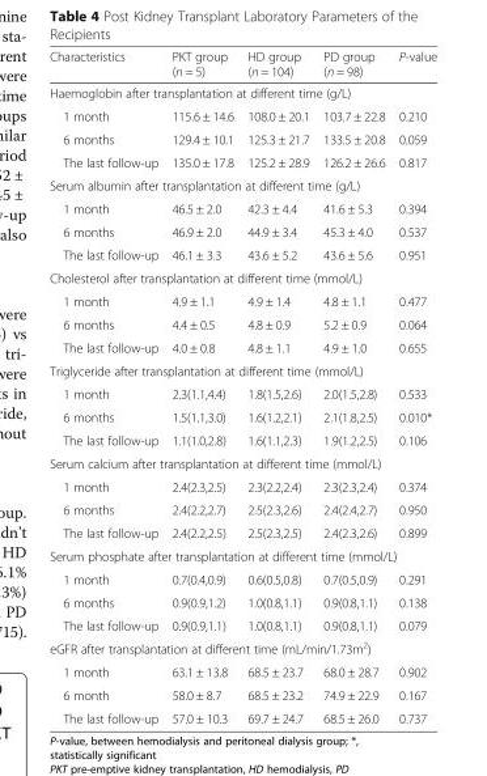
<table><thead><tr><td>Characteristics</td><td>PKT group (n = 5)</td><td>HD group (n = 104)</td><td>PD group (n = 98)</td><td>P-value</td></tr></thead><tbody><tr><td colspan="5">Haemoglobin after transplantation at different time (g/L)</td></tr><tr><td>1 month</td><td>115.6 ± 14.6</td><td>108.0 ± 20.1</td><td>103.7 ± 22.8</td><td>0.210</td></tr><tr><td>6 months</td><td>129.4 ± 10.1</td><td>125.3 ± 21.7</td><td>133.5 ± 20.8</td><td>0.059</td></tr><tr><td>The last follow-up</td><td>135.0 ± 17.8</td><td>125.2 ± 28.9</td><td>126.2 ± 26.6</td><td>0.817</td></tr><tr><td colspan="5">Serum albumin after transplantation at different time (g/L)</td></tr><tr><td>1 month</td><td>46.5 ± 2.0</td><td>42.3 ± 4.4</td><td>41.6 ± 5.3</td><td>0.394</td></tr><tr><td>6 months</td><td>46.9 ± 2.0</td><td>44.9 ± 3.4</td><td>45.3 ± 4.0</td><td>0.537</td></tr><tr><td>The last follow-up</td><td>46.1 ± 3.3</td><td>43.6 ± 5.2</td><td>43.6 ± 5.6</td><td>0.951</td></tr><tr><td colspan="5">Cholesterol after transplantation at different time (mmol/L)</td></tr><tr><td>1 month</td><td>4.9 ± 1.1</td><td>4.9 ± 1.4</td><td>4.8 ± 1.1</td><td>0.477</td></tr><tr><td>6 months</td><td>4.4 ± 0.5</td><td>4.8 ± 0.9</td><td>5.2 ± 0.9</td><td>0.064</td></tr><tr><td>The last follow-up</td><td>4.0 ± 0.8</td><td>4.8 ± 1.1</td><td>4.9 ± 1.0</td><td>0.655</td></tr><tr><td colspan="5">Triglyceride after transplantation at different time (mmol/L)</td></tr><tr><td>1 month</td><td>2.3(1.1,4.4)</td><td>1.8(1.5,2.6)</td><td>2.0(1.5,2.8)</td><td>0.533</td></tr><tr><td>6 months</td><td>1.5(1.1,3.0)</td><td>1.6(1.2,2.1)</td><td>2.1(1.8,2.5)</td><td>0.010*</td></tr><tr><td>The last follow-up</td><td>1.1(1.0,2.8)</td><td>1.6(1.1,2.3)</td><td>1.9(1.2,2.5)</td><td>0.106</td></tr><tr><td colspan="5">Serum calcium after transplantation at different time (mmol/L)</td></tr><tr><td>1 month</td><td>2.4(2.3,2.5)</td><td>2.3(2.2,2.4)</td><td>2.3(2.3,2.4)</td><td>0.374</td></tr><tr><td>6 months</td><td>2.4(2.2,2.7)</td><td>2.5(2.3,2.6)</td><td>2.4(2.4,2.7)</td><td>0.950</td></tr><tr><td>The last follow-up</td><td>2.4(2.2,2.5)</td><td>2.5(2.3,2.5)</td><td>2.4(2.3,2.6)</td><td>0.899</td></tr><tr><td colspan="5">Serum phosphate after transplantation at different time (mmol/L)</td></tr><tr><td>1 month</td><td>0.7(0.4,0.9)</td><td>0.6(0.5,0.8)</td><td>0.7(0.5,0.9)</td><td>0.291</td></tr><tr><td>6 months</td><td>0.9(0.9,1.2)</td><td>1.0(0.8,1.1)</td><td>0.9(0.8,1.1)</td><td>0.138</td></tr><tr><td>The last follow-up</td><td>0.9(0.9,1.1)</td><td>1.0(0.8,1.1)</td><td>0.9(0.8,1.1)</td><td>0.079</td></tr><tr><td colspan="5">eGFR after transplantation at different time (mL/min/1.73m<sup>2</sup>)</td></tr><tr><td>1 month</td><td>63.1 ± 13.8</td><td>68.5 ± 23.7</td><td>68.0 ± 28.7</td><td>0.902</td></tr><tr><td>6 month</td><td>58.0 ± 8.7</td><td>68.5 ± 23.2</td><td>74.9 ± 22.9</td><td>0.167</td></tr><tr><td>The last follow-up</td><td>57.0 ± 10.3</td><td>69.7 ± 24.7</td><td>68.5 ± 26.0</td><td>0.737</td></tr></tbody></table>